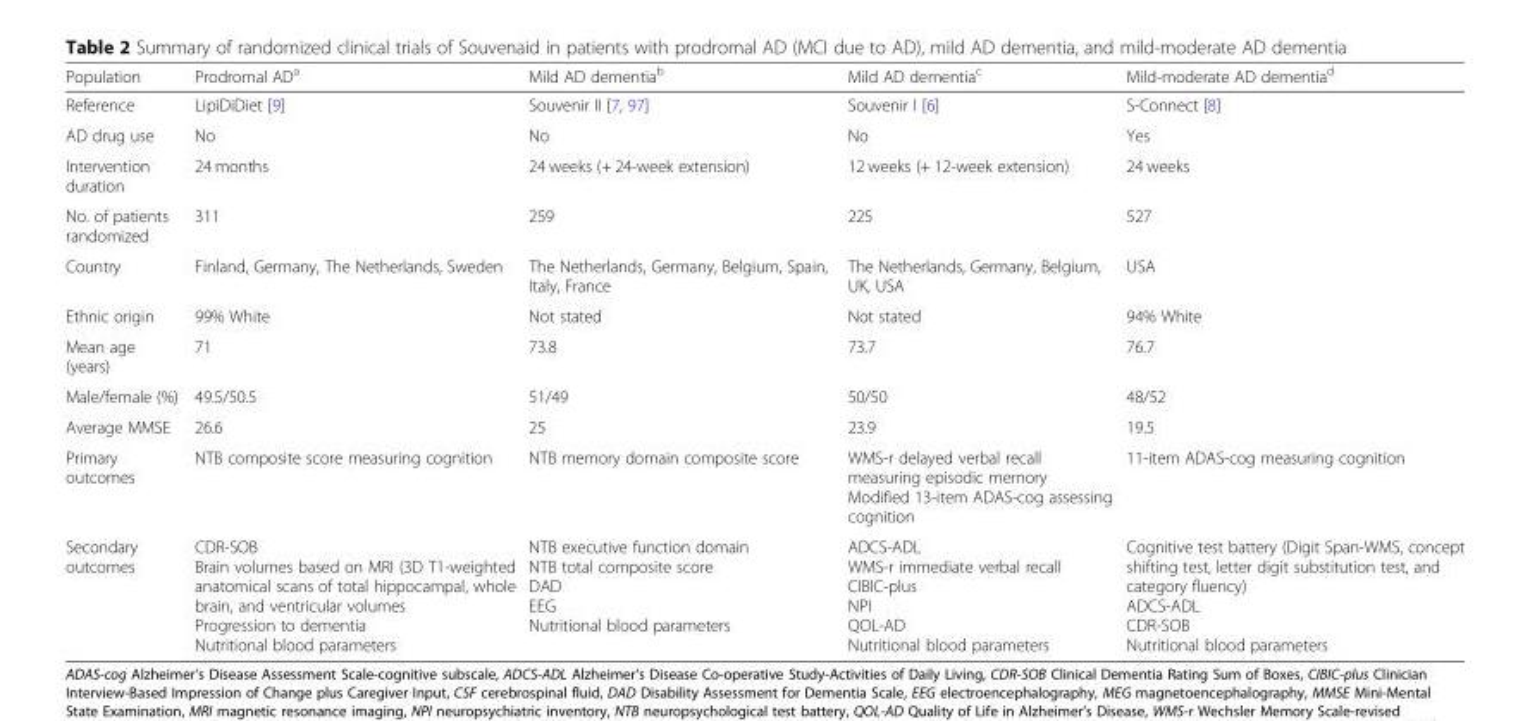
<table><thead><tr><td>Population</td><td>Prodromal AD<sup>a</sup></td><td>Mild AD dementia<sup>b</sup></td><td>Mild AD dementia<sup>c</sup></td><td>Mild-moderate AD dementia<sup>d</sup></td></tr></thead><tbody><tr><td>Reference</td><td>LipiDiDiet [9]</td><td>Souvenir II [7, 97]</td><td>Souvenir I [6]</td><td>S-Connect [8]</td></tr><tr><td>AD drug use</td><td>No</td><td>No</td><td>No</td><td>Yes</td></tr><tr><td>Intervention duration</td><td>24 months</td><td>24 weeks (+ 24-week extension)</td><td>12 weeks (+ 12-week extension)</td><td>24 weeks</td></tr><tr><td>No. of patients randomized</td><td>311</td><td>259</td><td>225</td><td>527</td></tr><tr><td>Country</td><td>Finland, Germany, The Netherlands, Sweden</td><td>The Netherlands, Germany, Belgium, Spain, Italy, France</td><td>The Netherlands, Germany, Belgium, UK, USA</td><td>USA</td></tr><tr><td>Ethnic origin</td><td>99% White</td><td>Not stated</td><td>Not stated</td><td>94% White</td></tr><tr><td>Mean age (years)</td><td>71</td><td>73.8</td><td>73.7</td><td>76.7</td></tr><tr><td>Male/female (%)</td><td>49.5/50.5</td><td>51/49</td><td>50/50</td><td>48/52</td></tr><tr><td>Average MMSE</td><td>26.6</td><td>25</td><td>23.9</td><td>19.5</td></tr><tr><td>Primary outcomes</td><td>NTB composite score measuring cognition</td><td>NTB memory domain composite score</td><td>WMS-r delayed verbal recall measuring episodic memory Modified 13-item ADAS-cog assessing cognition</td><td>11-item ADAS-cog measuring cognition</td></tr><tr><td>Secondary outcomes</td><td>CDR-SOB Brain volumes based on MRI (3D T1-weighted anatomical scans of total hippocampal, whole brain, and ventricular volumes Progression to dementia Nutritional blood parameters</td><td>NTB executive function domain NTB total composite score DAD EEG Nutritional blood parameters</td><td>ADCS-ADL WMS-r immediate verbal recall CIBIC-plus NPI QOL-AD Nutritional blood parameters</td><td>Cognitive test battery (Digit Span-WMS, concept shifting test, letter digit substitution test, and category fluency) ADCS-ADL CDR-SOB Nutritional blood parameters</td></tr></tbody></table>